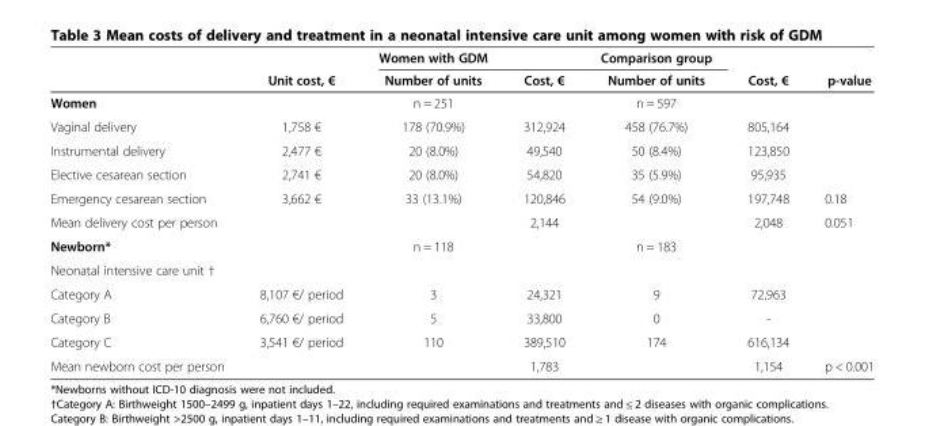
<table><thead><tr><td rowspan="2"></td><td rowspan="2">Unit cost, €</td><td rowspan="2">Women with GDM Number of units</td><td rowspan="2">Cost, €</td><td rowspan="2">Comparison group Number of units</td><td rowspan="2">Cost, €</td><td rowspan="2">p-value</td></tr><tr></tr></thead><tbody><tr><td>Women</td><td></td><td>n = 251</td><td></td><td>n = 597</td><td></td><td></td></tr><tr><td>Vaginal delivery</td><td>1,758 €</td><td>178 (70.9%)</td><td>312,924</td><td>458 (76.7%)</td><td>805,164</td><td></td></tr><tr><td>Instrumental delivery</td><td>2,477 €</td><td>20 (8.0%)</td><td>49,540</td><td>50 (8.4%)</td><td>123,850</td><td></td></tr><tr><td>Elective cesarean section</td><td>2,741 €</td><td>20 (8.0%)</td><td>54,820</td><td>35 (5.9%)</td><td>95,935</td><td></td></tr><tr><td>Emergency cesarean section</td><td>3,662 €</td><td>33 (13.1%)</td><td>120,846</td><td>54 (9.0%)</td><td>197,748</td><td>0.18</td></tr><tr><td>Mean delivery cost per person</td><td></td><td></td><td>2,144</td><td></td><td>2,048</td><td>0.051</td></tr><tr><td>Newborn*</td><td></td><td>n = 118</td><td></td><td>n = 183</td><td></td><td></td></tr><tr><td colspan="7">Neonatal intensive care unit †</td></tr><tr><td>Category A</td><td>8,107 €/ period</td><td>3</td><td>24,321</td><td>9</td><td>72,963</td><td></td></tr><tr><td>Category B</td><td>6,760 €/ period</td><td>5</td><td>33,800</td><td>0</td><td>-</td><td></td></tr><tr><td>Category C</td><td>3,541 €/ period</td><td>110</td><td>389,510</td><td>174</td><td>616,134</td><td></td></tr><tr><td>Mean newborn cost per person</td><td></td><td></td><td>1,783</td><td></td><td>1,154</td><td>p &lt; 0.001</td></tr></tbody></table>